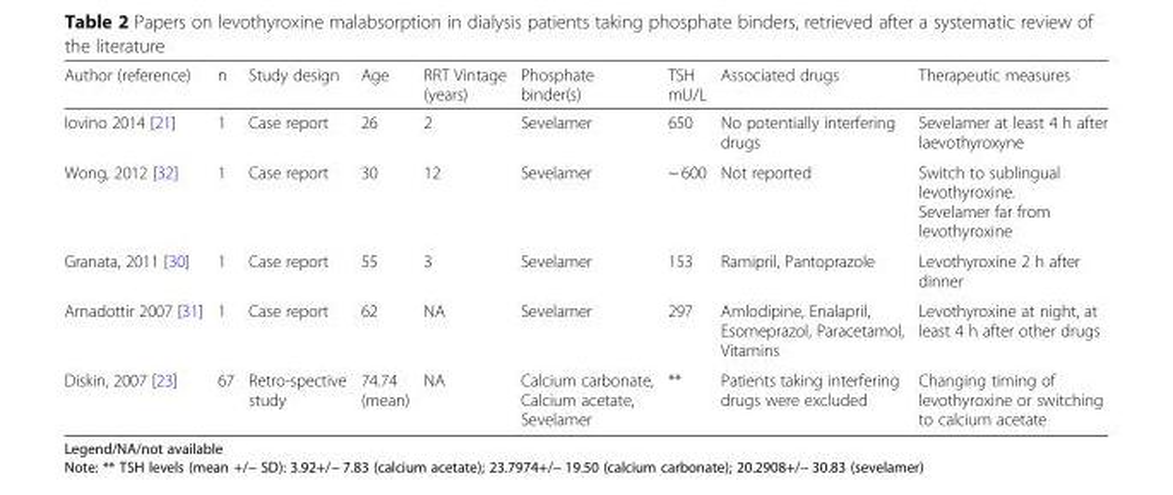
<table><thead><tr><td>Author (reference)</td><td>n</td><td>Study design</td><td>Age</td><td>RRT Vintage (years)</td><td>Phosphate binder(s)</td><td>TSH mU/L</td><td>Associated drugs</td><td>Therapeutic measures</td></tr></thead><tbody><tr><td>Iovino 2014 [21]</td><td>1</td><td>Case report</td><td>26</td><td>2</td><td>Sevelamer</td><td>650</td><td>No potentially interfering drugs</td><td>Sevelamer at least 4 h after laevothyroxyne</td></tr><tr><td>Wong, 2012 [32]</td><td>1</td><td>Case report</td><td>30</td><td>12</td><td>Sevelamer</td><td>~ 600</td><td>Not reported</td><td>Switch to sublingual levothyroxine. Sevelamer far from levothyroxine</td></tr><tr><td>Granata, 2011 [30]</td><td>1</td><td>Case report</td><td>55</td><td>3</td><td>Sevelamer</td><td>153</td><td>Ramipril, Pantoprazole</td><td>Levothyroxine 2 h after dinner</td></tr><tr><td>Arnadottir 2007 [31]</td><td>1</td><td>Case report</td><td>62</td><td>NA</td><td>Sevelamer</td><td>297</td><td>Amlodipine, Enalapril, Esomeprazol, Paracetamol, Vitamins</td><td>Levothyroxine at night, at least 4 h after other drugs</td></tr><tr><td>Diskin, 2007 [23]</td><td>67</td><td>Retro-spective study</td><td>74.74 (mean)</td><td>NA</td><td>Calcium carbonate, Calcium acetate, Sevelamer</td><td>**</td><td>Patients taking interfering drugs were excluded</td><td>Changing timing of levothyroxine or switching to calcium acetate</td></tr></tbody></table>